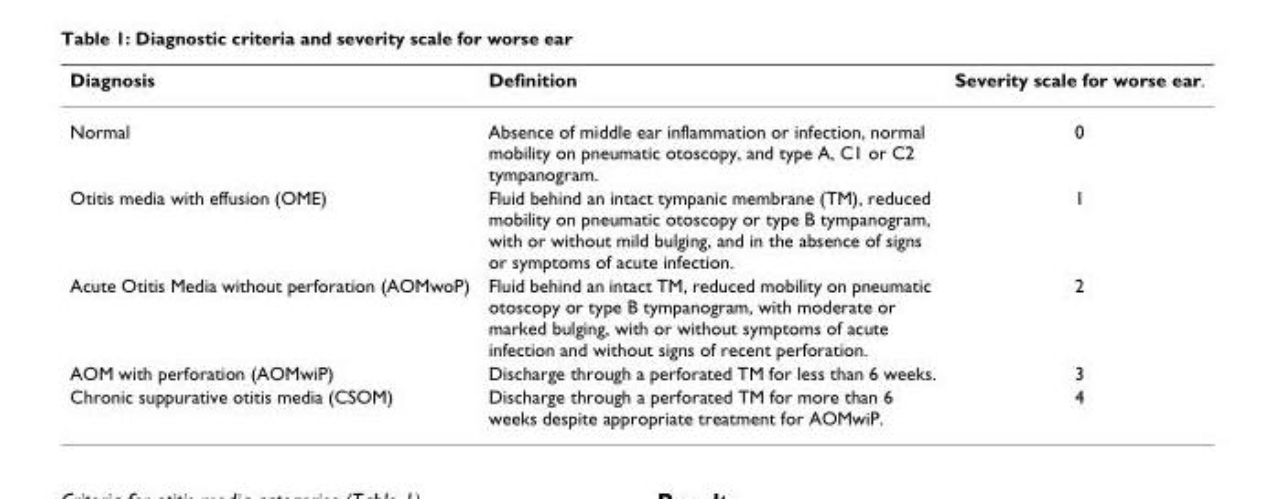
<table><thead><tr><td>Diagnosis</td><td>Definition</td><td>Severity scale for worse ear.</td></tr></thead><tbody><tr><td>Normal</td><td>Absence of middle ear inflammation or infection, normal mobility on pneumatic otoscopy, and type A, C1 or C2 tympanogram.</td><td>0</td></tr><tr><td>Otitis media with effusion (OME)</td><td>Fluid behind an intact tympanic membrane (TM), reduced mobility on pneumatic otoscopy or type B tympanogram, with or without mild bulging, and in the absence of signs or symptoms of acute infection.</td><td>1</td></tr><tr><td>Acute Otitis Media without perforation (AOMwoP)</td><td>Fluid behind an intact TM, reduced mobility on pneumatic otoscopy or type B tympanogram, with moderate or marked bulging, with or without symptoms of acute infection and without signs of recent perforation.</td><td>2</td></tr><tr><td>AOM with perforation (AOMwiP)</td><td>Discharge through a perforated TM for less than 6 weeks.</td><td>3</td></tr><tr><td>Chronic suppurative otitis media (CSOM)</td><td>Discharge through a perforated TM for more than 6 weeks despite appropriate treatment for AOMwiP.</td><td>4</td></tr></tbody></table>